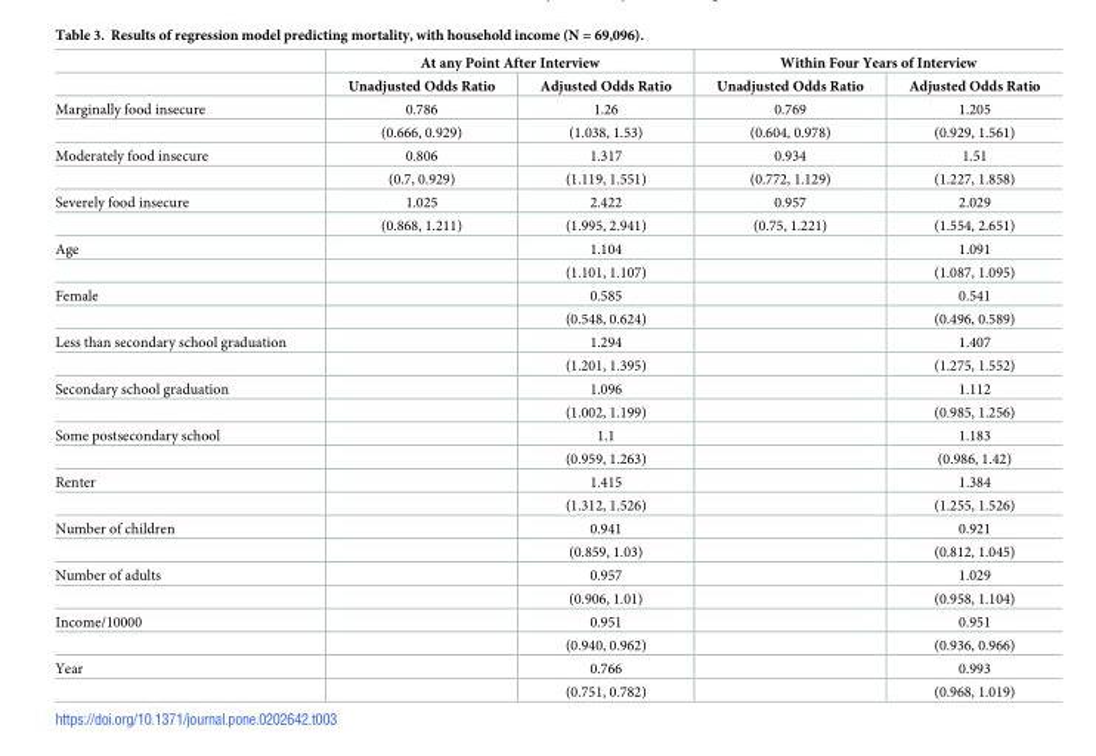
<table><thead><tr><td rowspan="2"></td><td colspan="2">At any Point After Interview</td><td colspan="2">Within Four Years of Interview</td></tr><tr><td>Unadjusted Odds Ratio</td><td>Adjusted Odds Ratio</td><td>Unadjusted Odds Ratio</td><td>Adjusted Odds Ratio</td></tr></thead><tbody><tr><td rowspan="2">Marginally food insecure</td><td>0.786</td><td>1.26</td><td>0.769</td><td>1.205</td></tr><tr><td>(0.666, 0.929)</td><td>(1.038, 1.53)</td><td>(0.604, 0.978)</td><td>(0.929, 1.561)</td></tr><tr><td rowspan="2">Moderately food insecure</td><td>0.806</td><td>1.317</td><td>0.934</td><td>1.51</td></tr><tr><td>(0.7, 0.929)</td><td>(1.119, 1.551)</td><td>(0.772, 1.129)</td><td>(1.227, 1.858)</td></tr><tr><td rowspan="2">Severely food insecure</td><td>1.025</td><td>2.422</td><td>0.957</td><td>2.029</td></tr><tr><td>(0.868, 1.211)</td><td>(1.995, 2.941)</td><td>(0.75, 1.221)</td><td>(1.554, 2.651)</td></tr><tr><td rowspan="2">Age</td><td></td><td>1.104</td><td></td><td>1.091</td></tr><tr><td></td><td>(1.101, 1.107)</td><td></td><td>(1.087, 1.095)</td></tr><tr><td rowspan="2">Female</td><td></td><td>0.585</td><td></td><td>0.541</td></tr><tr><td></td><td>(0.548, 0.624)</td><td></td><td>(0.496, 0.589)</td></tr><tr><td rowspan="2">Less than secondary school graduation</td><td></td><td>1.294</td><td></td><td>1.407</td></tr><tr><td></td><td>(1.201, 1.395)</td><td></td><td>(1.275, 1.552)</td></tr><tr><td rowspan="2">Secondary school graduation</td><td></td><td>1.096</td><td></td><td>1.112</td></tr><tr><td></td><td>(1.002, 1.199)</td><td></td><td>(0.985, 1.256)</td></tr><tr><td rowspan="2">Some postsecondary school</td><td></td><td>1.1</td><td></td><td>1.183</td></tr><tr><td></td><td>(0.959, 1.263)</td><td></td><td>(0.986, 1.42)</td></tr><tr><td rowspan="2">Renter</td><td></td><td>1.415</td><td></td><td>1.384</td></tr><tr><td></td><td>(1.312, 1.526)</td><td></td><td>(1.255, 1.526)</td></tr><tr><td rowspan="2">Number of children</td><td></td><td>0.941</td><td></td><td>0.921</td></tr><tr><td></td><td>(0.859, 1.03)</td><td></td><td>(0.812, 1.045)</td></tr><tr><td rowspan="2">Number of adults</td><td></td><td>0.957</td><td></td><td>1.029</td></tr><tr><td></td><td>(0.906, 1.01)</td><td></td><td>(0.958, 1.104)</td></tr><tr><td rowspan="2">Income/10000</td><td></td><td>0.951</td><td></td><td>0.951</td></tr><tr><td></td><td>(0.940, 0.962)</td><td></td><td>(0.936, 0.966)</td></tr><tr><td rowspan="2">Year</td><td></td><td>0.766</td><td></td><td>0.993</td></tr><tr><td></td><td>(0.751, 0.782)</td><td></td><td>(0.968, 1.019)</td></tr></tbody></table>